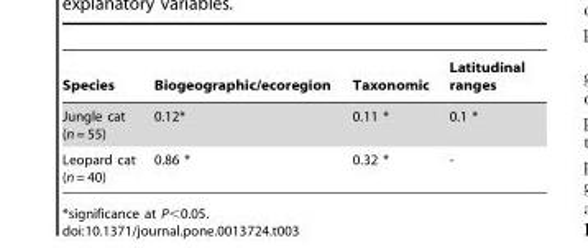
<table><thead><tr><td>Species</td><td>Biogeographic/ecoregion</td><td>Taxonomic</td><td>Latitudinal ranges</td></tr></thead><tbody><tr><td>Jungle cat (n = 55)</td><td>0.12*</td><td>0.11 *</td><td>0.1 *</td></tr><tr><td>Leopard cat (n = 40)</td><td>0.86 *</td><td>0.32 *</td><td>-</td></tr></tbody></table>